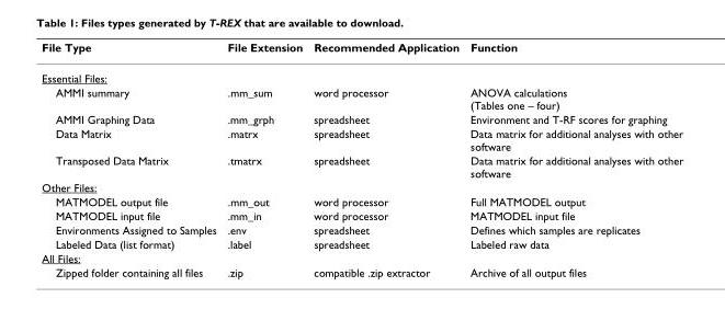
<table><thead><tr><td>File Type</td><td>File Extension</td><td>Recommended Application</td><td>Function</td></tr></thead><tbody><tr><td colspan="4">Essential Files:</td></tr><tr><td>AMMI summary</td><td>.mm_sum</td><td>word processor</td><td>ANOVA calculations (Tables one – four)</td></tr><tr><td>AMMI Graphing Data</td><td>.mm_grph</td><td>spreadsheet</td><td>Environment and T-RF scores for graphing</td></tr><tr><td>Data Matrix</td><td>.matrx</td><td>spreadsheet</td><td>Data matrix for additional analyses with other software</td></tr><tr><td>Transposed Data Matrix</td><td>.tmatrx</td><td>spreadsheet</td><td>Data matrix for additional analyses with other software</td></tr><tr><td colspan="4">Other Files:</td></tr><tr><td>MATMODEL output file</td><td>.mm_out</td><td>word processor</td><td>Full MATMODEL output</td></tr><tr><td>MATMODEL input file</td><td>.mm_in</td><td>word processor</td><td>MATMODEL input file</td></tr><tr><td>Environments Assigned to Samples</td><td>.env</td><td>spreadsheet</td><td>Defines which samples are replicates</td></tr><tr><td>Labeled Data (list format)</td><td>.label</td><td>spreadsheet</td><td>Labeled raw data</td></tr><tr><td colspan="4">All Files:</td></tr><tr><td>Zipped folder containing all files</td><td>.zip</td><td>compatible .zip extractor</td><td>Archive of all output files</td></tr></tbody></table>